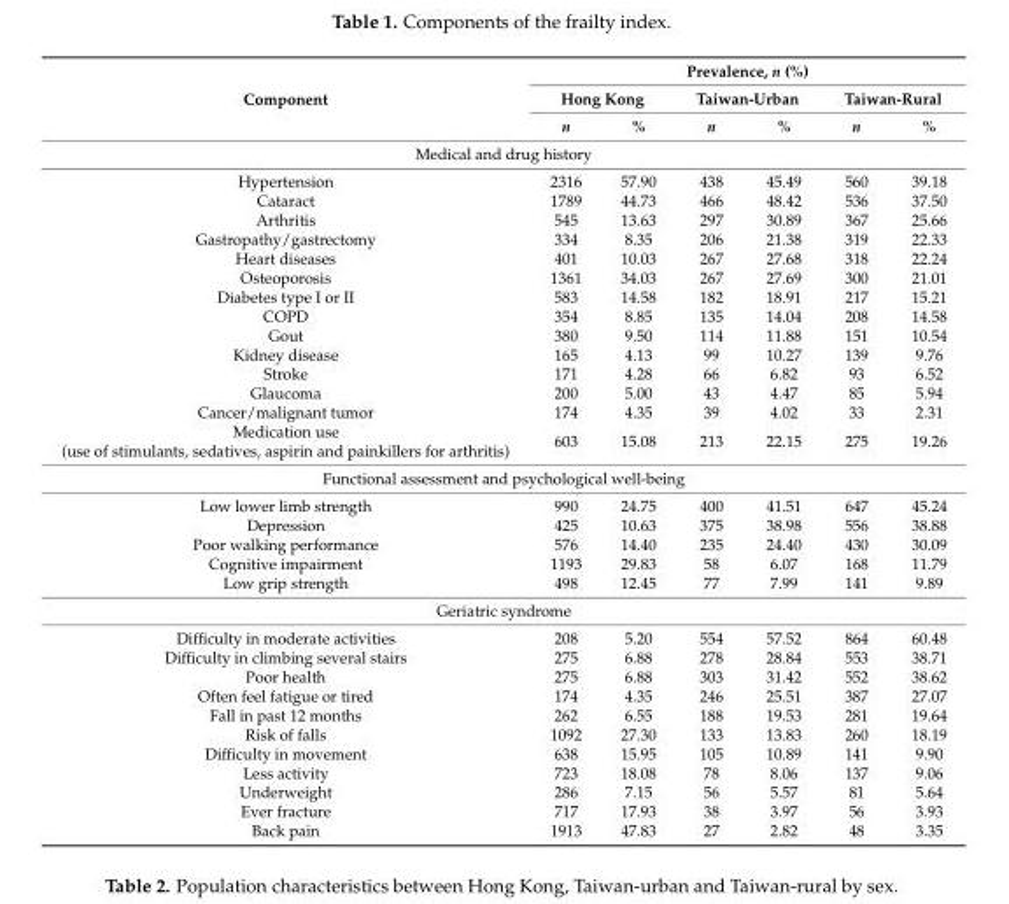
<table><thead><tr><td rowspan="3">Component</td><td colspan="6">Prevalence, n (%)</td></tr><tr><td colspan="2">Hong Kong</td><td colspan="2">Taiwan-Urban</td><td colspan="2">Taiwan-Rural</td></tr><tr><td>n</td><td>%</td><td>n</td><td>%</td><td>n</td><td>%</td></tr></thead><tbody><tr><td colspan="7">Medical and drug history</td></tr><tr><td>Hypertension</td><td>2316</td><td>57.90</td><td>438</td><td>45.49</td><td>560</td><td>39.18</td></tr><tr><td>Cataract</td><td>1789</td><td>44.73</td><td>466</td><td>48.42</td><td>536</td><td>37.50</td></tr><tr><td>Arthritis</td><td>545</td><td>13.63</td><td>297</td><td>30.89</td><td>367</td><td>25.66</td></tr><tr><td>Gastropathy/gastrectomy</td><td>334</td><td>8.35</td><td>206</td><td>21.38</td><td>319</td><td>22.33</td></tr><tr><td>Heart diseases</td><td>401</td><td>10.03</td><td>267</td><td>27.68</td><td>318</td><td>22.24</td></tr><tr><td>Osteoporosis</td><td>1361</td><td>34.03</td><td>267</td><td>27.69</td><td>300</td><td>21.01</td></tr><tr><td>Diabetes type I or II</td><td>583</td><td>14.58</td><td>182</td><td>18.91</td><td>217</td><td>15.21</td></tr><tr><td>COPD</td><td>354</td><td>8.85</td><td>135</td><td>14.04</td><td>208</td><td>14.58</td></tr><tr><td>Gout</td><td>380</td><td>9.50</td><td>114</td><td>11.88</td><td>151</td><td>10.54</td></tr><tr><td>Kidney disease</td><td>165</td><td>4.13</td><td>99</td><td>10.27</td><td>139</td><td>9.76</td></tr><tr><td>Stroke</td><td>171</td><td>4.28</td><td>66</td><td>6.82</td><td>93</td><td>6.52</td></tr><tr><td>Glaucoma</td><td>200</td><td>5.00</td><td>43</td><td>4.47</td><td>85</td><td>5.94</td></tr><tr><td>Cancer/malignant tumor</td><td>174</td><td>4.35</td><td>39</td><td>4.02</td><td>33</td><td>2.31</td></tr><tr><td>Medication use (use of stimulants, sedatives, aspirin and painkillers for arthritis)</td><td>603</td><td>15.08</td><td>213</td><td>22.15</td><td>275</td><td>19.26</td></tr><tr><td colspan="7">Functional assessment and psychological well-being</td></tr><tr><td>Low lower limb strength</td><td>990</td><td>24.75</td><td>400</td><td>41.51</td><td>647</td><td>45.24</td></tr><tr><td>Depression</td><td>425</td><td>10.63</td><td>375</td><td>38.98</td><td>556</td><td>38.88</td></tr><tr><td>Poor walking performance</td><td>576</td><td>14.40</td><td>235</td><td>24.40</td><td>430</td><td>30.09</td></tr><tr><td>Cognitive impairment</td><td>1193</td><td>29.83</td><td>58</td><td>6.07</td><td>168</td><td>11.79</td></tr><tr><td>Low grip strength</td><td>498</td><td>12.45</td><td>77</td><td>7.99</td><td>141</td><td>9.89</td></tr><tr><td colspan="7">Geriatric syndrome</td></tr><tr><td>Difficulty in moderate activities</td><td>208</td><td>5.20</td><td>554</td><td>57.52</td><td>864</td><td>60.48</td></tr><tr><td>Difficulty in climbing several stairs</td><td>275</td><td>6.88</td><td>278</td><td>28.84</td><td>553</td><td>38.71</td></tr><tr><td>Poor health</td><td>275</td><td>6.88</td><td>303</td><td>31.42</td><td>552</td><td>38.62</td></tr><tr><td>Often feel fatigue or tired</td><td>174</td><td>4.35</td><td>246</td><td>25.51</td><td>387</td><td>27.07</td></tr><tr><td>Fall in past 12 months</td><td>262</td><td>6.55</td><td>188</td><td>19.53</td><td>281</td><td>19.64</td></tr><tr><td>Risk of falls</td><td>1092</td><td>27.30</td><td>133</td><td>13.83</td><td>260</td><td>18.19</td></tr><tr><td>Difficulty in movement</td><td>638</td><td>15.95</td><td>105</td><td>10.89</td><td>141</td><td>9.90</td></tr><tr><td>Less activity</td><td>723</td><td>18.08</td><td>78</td><td>8.06</td><td>137</td><td>9.06</td></tr><tr><td>Underweight</td><td>286</td><td>7.15</td><td>56</td><td>5.57</td><td>81</td><td>5.64</td></tr><tr><td>Ever fracture</td><td>717</td><td>17.93</td><td>38</td><td>3.97</td><td>56</td><td>3.93</td></tr><tr><td>Back pain</td><td>1913</td><td>47.83</td><td>27</td><td>2.82</td><td>48</td><td>3.35</td></tr></tbody></table>